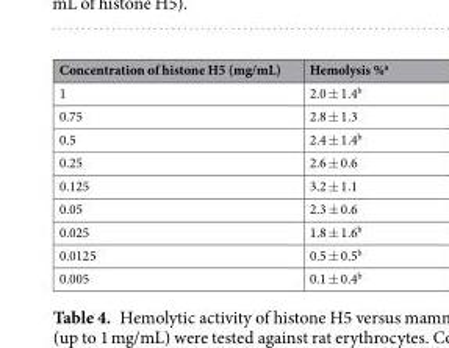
<table><thead><tr><td>Concentration of histone H5 (mg/mL)</td><td>Hemolysis %<sup>a</sup></td></tr></thead><tbody><tr><td>1</td><td>2.0 ± 1.4<sup>b</sup></td></tr><tr><td>0.75</td><td>2.8 ± 1.3</td></tr><tr><td>0.5</td><td>2.4 ± 1.4<sup>b</sup></td></tr><tr><td>0.25</td><td>2.6 ± 0.6</td></tr><tr><td>0.125</td><td>3.2 ± 1.1</td></tr><tr><td>0.05</td><td>2.3 ± 0.6</td></tr><tr><td>0.025</td><td>1.8 ± 1.6<sup>b</sup></td></tr><tr><td>0.0125</td><td>0.5 ± 0.5<sup>b</sup></td></tr><tr><td>0.005</td><td>0.1 ± 0.4<sup>b</sup></td></tr></tbody></table>